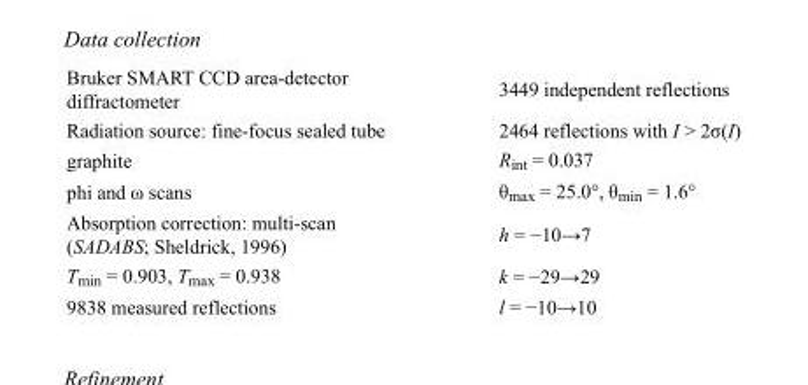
<table><tbody><tr><td>Bruker SMART CCD area-detector diffractometer</td><td>3449 independent reflections</td></tr><tr><td>Radiation source: fine-focus sealed tube</td><td>2464 reflections with I &gt; 2σ(I)</td></tr><tr><td>graphite</td><td>R<sub>int</sub> = 0.037</td></tr><tr><td>phi and ω scans</td><td>θ<sub>max</sub> = 25.0°, θ<sub>min</sub> = 1.6°</td></tr><tr><td>Absorption correction: multi-scan (SADABS; Sheldrick, 1996)</td><td>h = −10→7</td></tr><tr><td>T<sub>min</sub> = 0.903, T<sub>max</sub> = 0.938</td><td>k = −29→29</td></tr><tr><td>9838 measured reflections</td><td>l = −10→10</td></tr></tbody></table>